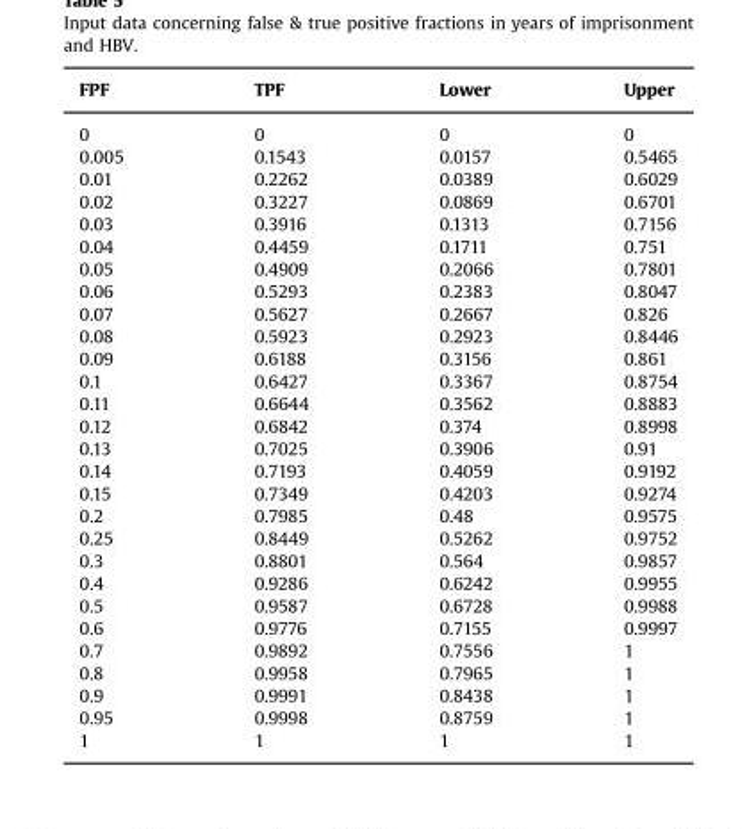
<table><thead><tr><td>FPF</td><td>TPF</td><td>Lower</td><td>Upper</td></tr></thead><tbody><tr><td>0</td><td>0</td><td>0</td><td>0</td></tr><tr><td>0.005</td><td>0.1543</td><td>0.0157</td><td>0.5465</td></tr><tr><td>0.01</td><td>0.2262</td><td>0.0389</td><td>0.6029</td></tr><tr><td>0.02</td><td>0.3227</td><td>0.0869</td><td>0.6701</td></tr><tr><td>0.03</td><td>0.3916</td><td>0.1313</td><td>0.7156</td></tr><tr><td>0.04</td><td>0.4459</td><td>0.1711</td><td>0.751</td></tr><tr><td>0.05</td><td>0.4909</td><td>0.2066</td><td>0.7801</td></tr><tr><td>0.06</td><td>0.5293</td><td>0.2383</td><td>0.8047</td></tr><tr><td>0.07</td><td>0.5627</td><td>0.2667</td><td>0.826</td></tr><tr><td>0.08</td><td>0.5923</td><td>0.2923</td><td>0.8446</td></tr><tr><td>0.09</td><td>0.6188</td><td>0.3156</td><td>0.861</td></tr><tr><td>0.1</td><td>0.6427</td><td>0.3367</td><td>0.8754</td></tr><tr><td>0.11</td><td>0.6644</td><td>0.3562</td><td>0.8883</td></tr><tr><td>0.12</td><td>0.6842</td><td>0.374</td><td>0.8998</td></tr><tr><td>0.13</td><td>0.7025</td><td>0.3906</td><td>0.91</td></tr><tr><td>0.14</td><td>0.7193</td><td>0.4059</td><td>0.9192</td></tr><tr><td>0.15</td><td>0.7349</td><td>0.4203</td><td>0.9274</td></tr><tr><td>0.2</td><td>0.7985</td><td>0.48</td><td>0.9575</td></tr><tr><td>0.25</td><td>0.8449</td><td>0.5262</td><td>0.9752</td></tr><tr><td>0.3</td><td>0.8801</td><td>0.564</td><td>0.9857</td></tr><tr><td>0.4</td><td>0.9286</td><td>0.6242</td><td>0.9955</td></tr><tr><td>0.5</td><td>0.9587</td><td>0.6728</td><td>0.9988</td></tr><tr><td>0.6</td><td>0.9776</td><td>0.7155</td><td>0.9997</td></tr><tr><td>0.7</td><td>0.9892</td><td>0.7556</td><td>1</td></tr><tr><td>0.8</td><td>0.9958</td><td>0.7965</td><td>1</td></tr><tr><td>0.9</td><td>0.9991</td><td>0.8438</td><td>1</td></tr><tr><td>0.95</td><td>0.9998</td><td>0.8759</td><td>1</td></tr><tr><td>1</td><td>1</td><td>1</td><td>1</td></tr></tbody></table>